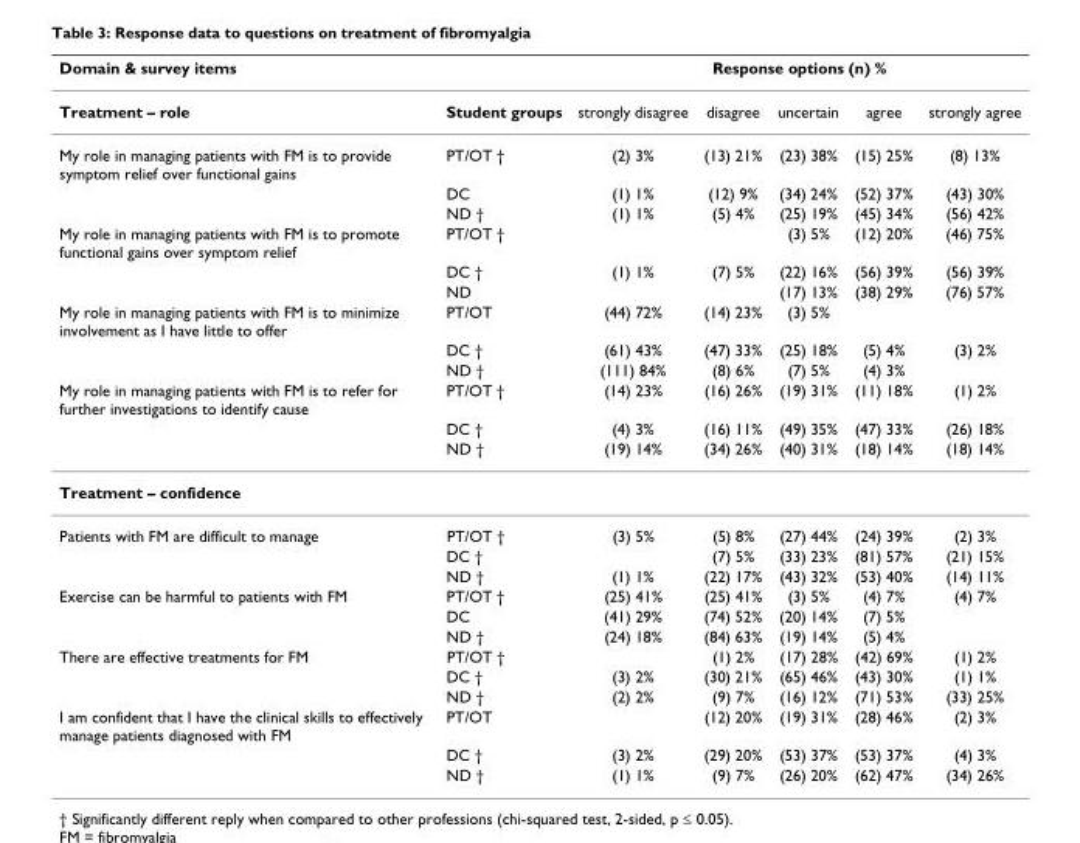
<table><thead><tr><td rowspan="2">Domain &amp; survey items Treatment – role</td><td rowspan="2">Student groups</td><td colspan="5">Response options (n) %</td></tr><tr><td>strongly disagree</td><td>disagree</td><td>uncertain</td><td>agree</td><td>strongly agree</td></tr></thead><tbody><tr><td rowspan="3">My role in managing patients with FM is to provide symptom relief over functional gains</td><td>PT/OT †</td><td>(2) 3%</td><td>(13) 21%</td><td>(23) 38%</td><td>(15) 25%</td><td>(8) 13%</td></tr><tr><td>DC</td><td>(1) 1%</td><td>(12) 9%</td><td>(34) 24%</td><td>(52) 37%</td><td>(43) 30%</td></tr><tr><td>ND †</td><td>(1) 1%</td><td>(5) 4%</td><td>(25) 19%</td><td>(45) 34%</td><td>(56) 42%</td></tr><tr><td rowspan="3">My role in managing patients with FM is to promote functional gains over symptom relief</td><td>PT/OT †</td><td></td><td></td><td>(3) 5%</td><td>(12) 20%</td><td>(46) 75%</td></tr><tr><td>DC †</td><td>(1) 1%</td><td>(7) 5%</td><td>(22) 16%</td><td>(56) 39%</td><td>(56) 39%</td></tr><tr><td>ND</td><td></td><td></td><td>(17) 13%</td><td>(38) 29%</td><td>(76) 57%</td></tr><tr><td rowspan="3">My role in managing patients with FM is to minimize involvement as I have little to offer</td><td>PT/OT</td><td>(44) 72%</td><td>(14) 23%</td><td>(3) 5%</td><td></td><td></td></tr><tr><td>DC †</td><td>(61) 43%</td><td>(47) 33%</td><td>(25) 18%</td><td>(5) 4%</td><td>(3) 2%</td></tr><tr><td>ND †</td><td>(111) 84%</td><td>(8) 6%</td><td>(7) 5%</td><td>(4) 3%</td><td></td></tr><tr><td rowspan="3">My role in managing patients with FM is to refer for further investigations to identify cause</td><td>PT/OT †</td><td>(14) 23%</td><td>(16) 26%</td><td>(19) 31%</td><td>(11) 18%</td><td>(1) 2%</td></tr><tr><td>DC †</td><td>(4) 3%</td><td>(16) 11%</td><td>(49) 35%</td><td>(47) 33%</td><td>(26) 18%</td></tr><tr><td>ND †</td><td>(19) 14%</td><td>(34) 26%</td><td>(40) 31%</td><td>(18) 14%</td><td>(18) 14%</td></tr><tr><td colspan="7">Treatment – confidence</td></tr><tr><td rowspan="3">Patients with FM are difficult to manage</td><td>PT/OT †</td><td>(3) 5%</td><td>(5) 8%</td><td>(27) 44%</td><td>(24) 39%</td><td>(2) 3%</td></tr><tr><td>DC †</td><td></td><td>(7) 5%</td><td>(33) 23%</td><td>(81) 57%</td><td>(21) 15%</td></tr><tr><td>ND †</td><td>(1) 1%</td><td>(22) 17%</td><td>(43) 32%</td><td>(53) 40%</td><td>(14) 11%</td></tr><tr><td rowspan="3">Exercise can be harmful to patients with FM</td><td>PT/OT †</td><td>(25) 41%</td><td>(25) 41%</td><td>(3) 5%</td><td>(4) 7%</td><td>(4) 7%</td></tr><tr><td>DC</td><td>(41) 29%</td><td>(74) 52%</td><td>(20) 14%</td><td>(7) 5%</td><td></td></tr><tr><td>ND †</td><td>(24) 18%</td><td>(84) 63%</td><td>(19) 14%</td><td>(5) 4%</td><td></td></tr><tr><td rowspan="3">There are effective treatments for FM</td><td>PT/OT †</td><td></td><td>(1) 2%</td><td>(17) 28%</td><td>(42) 69%</td><td>(1) 2%</td></tr><tr><td>DC †</td><td>(3) 2%</td><td>(30) 21%</td><td>(65) 46%</td><td>(43) 30%</td><td>(1) 1%</td></tr><tr><td>ND †</td><td>(2) 2%</td><td>(9) 7%</td><td>(16) 12%</td><td>(71) 53%</td><td>(33) 25%</td></tr><tr><td rowspan="3">I am confident that I have the clinical skills to effectively manage patients diagnosed with FM</td><td>PT/OT</td><td></td><td>(12) 20%</td><td>(19) 31%</td><td>(28) 46%</td><td>(2) 3%</td></tr><tr><td>DC †</td><td>(3) 2%</td><td>(29) 20%</td><td>(53) 37%</td><td>(53) 37%</td><td>(4) 3%</td></tr><tr><td>ND †</td><td>(1) 1%</td><td>(9) 7%</td><td>(26) 20%</td><td>(62) 47%</td><td>(34) 26%</td></tr></tbody></table>